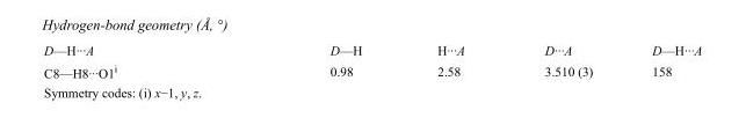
<table><tbody><tr><td>D—H···A</td><td>D—H</td><td>H···A</td><td>D···A</td><td>D—H···A</td></tr><tr><td>C8—H8···O1<sup>i</sup></td><td>0.98</td><td>2.58</td><td>3.510 (3)</td><td>158</td></tr></tbody></table>